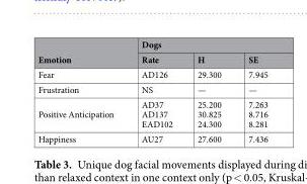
<table><thead><tr><td rowspan="2">Emotion</td><td colspan="3">Dogs</td></tr><tr><td>Rate</td><td>H</td><td>SE</td></tr></thead><tbody><tr><td>Fear</td><td>AD126</td><td>29.300</td><td>7.945</td></tr><tr><td>Frustration</td><td>NS</td><td>—</td><td>—</td></tr><tr><td>Positive Anticipation</td><td>AD37 AD137 EAD102</td><td>25.200 30.825 24.300</td><td>7.263 8.716 8.281</td></tr><tr><td>Happiness</td><td>AU27</td><td>27.600</td><td>7.436</td></tr></tbody></table>